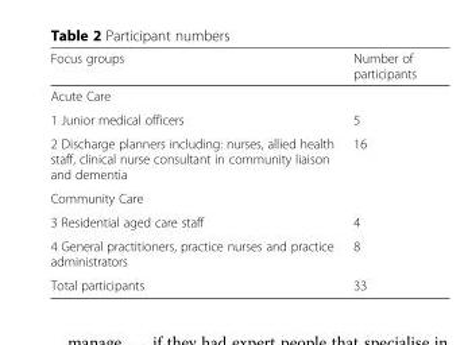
<table><thead><tr><td>Focus groups</td><td>Number of participants</td></tr></thead><tbody><tr><td colspan="2">Acute Care</td></tr><tr><td>1 Junior medical officers</td><td>5</td></tr><tr><td>2 Discharge planners including: nurses, allied health staff, clinical nurse consultant in community liaison and dementia</td><td>16</td></tr><tr><td colspan="2">Community Care</td></tr><tr><td>3 Residential aged care staff</td><td>4</td></tr><tr><td>4 General practitioners, practice nurses and practice administrators</td><td>8</td></tr><tr><td>Total participants</td><td>33</td></tr></tbody></table>